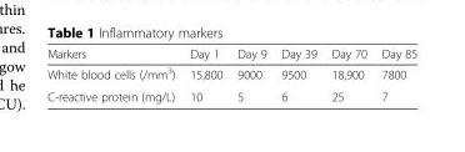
<table><thead><tr><td>Markers</td><td>Day 1</td><td>Day 9</td><td>Day 39</td><td>Day 70</td><td>Day 85</td></tr></thead><tbody><tr><td>White blood cells (/mm<sup>3</sup>)</td><td>15,800</td><td>9000</td><td>9500</td><td>18,900</td><td>7800</td></tr><tr><td>C-reactive protein (mg/L)</td><td>10</td><td>5</td><td>6</td><td>25</td><td>7</td></tr></tbody></table>